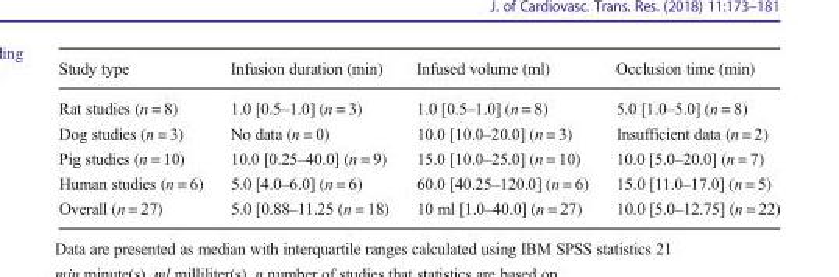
<table><thead><tr><td>Study type</td><td>Infusion duration (min)</td><td>Infused volume (ml)</td><td>Occlusion time (min)</td></tr></thead><tbody><tr><td>Rat studies (n = 8)</td><td>1.0 [0.5–1.0] (n = 3)</td><td>1.0 [0.5–1.0] (n = 8)</td><td>5.0 [1.0–5.0] (n = 8)</td></tr><tr><td>Dog studies (n = 3)</td><td>No data (n = 0)</td><td>10.0 [10.0–20.0] (n = 3)</td><td>Insufficient data (n = 2)</td></tr><tr><td>Pig studies (n = 10)</td><td>10.0 [0.25–40.0] (n = 9)</td><td>15.0 [10.0–25.0] (n = 10)</td><td>10.0 [5.0–20.0] (n = 7)</td></tr><tr><td>Human studies (n = 6)</td><td>5.0 [4.0–6.0] (n = 6)</td><td>60.0 [40.25–120.0] (n = 6)</td><td>15.0 [11.0–17.0] (n = 5)</td></tr><tr><td>Overall (n = 27)</td><td>5.0 [0.88–11.25 (n = 18)</td><td>10 ml [1.0–40.0] (n = 27)</td><td>10.0 [5.0–12.75] (n = 22)</td></tr></tbody></table>